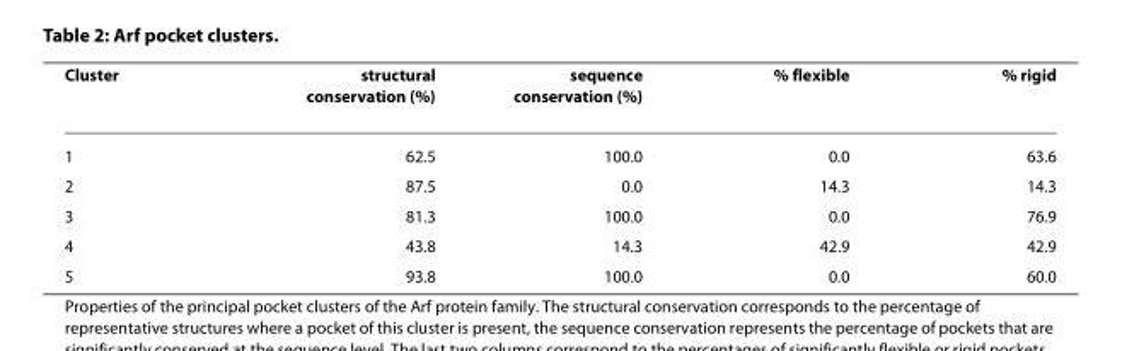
<table><thead><tr><td>Cluster</td><td>structural conservation (%)</td><td>sequence conservation (%)</td><td>% flexible</td><td>% rigid</td></tr></thead><tbody><tr><td>1</td><td>62.5</td><td>100.0</td><td>0.0</td><td>63.6</td></tr><tr><td>2</td><td>87.5</td><td>0.0</td><td>14.3</td><td>14.3</td></tr><tr><td>3</td><td>81.3</td><td>100.0</td><td>0.0</td><td>76.9</td></tr><tr><td>4</td><td>43.8</td><td>14.3</td><td>42.9</td><td>42.9</td></tr><tr><td>5</td><td>93.8</td><td>100.0</td><td>0.0</td><td>60.0</td></tr></tbody></table>